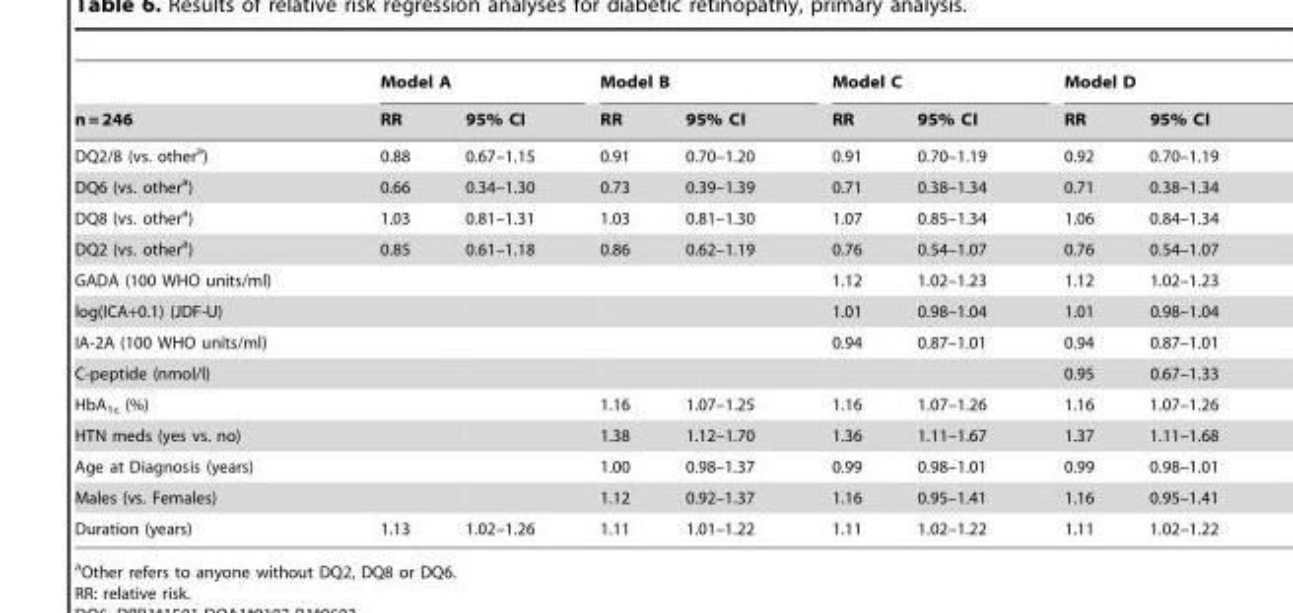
<table><thead><tr><td rowspan="2">n = 246</td><td colspan="2">Model A</td><td colspan="2">Model B</td><td colspan="2">Model C</td><td colspan="2">Model D</td></tr><tr><td>RR</td><td>95% CI</td><td>RR</td><td>95% CI</td><td>RR</td><td>95% CI</td><td>RR</td><td>95% CI</td></tr></thead><tbody><tr><td>DQ2/8 (vs. other<sup>a</sup>)</td><td>0.88</td><td>0.67–1.15</td><td>0.91</td><td>0.70–1.20</td><td>0.91</td><td>0.70–1.19</td><td>0.92</td><td>0.70–1.19</td></tr><tr><td>DQ6 (vs. other<sup>a</sup>)</td><td>0.66</td><td>0.34–1.30</td><td>0.73</td><td>0.39–1.39</td><td>0.71</td><td>0.38–1.34</td><td>0.71</td><td>0.38–1.34</td></tr><tr><td>DQ8 (vs. other<sup>a</sup>)</td><td>1.03</td><td>0.81–1.31</td><td>1.03</td><td>0.81–1.30</td><td>1.07</td><td>0.85–1.34</td><td>1.06</td><td>0.84–1.34</td></tr><tr><td>DQ2 (vs. other<sup>a</sup>)</td><td>0.85</td><td>0.61–1.18</td><td>0.86</td><td>0.62–1.19</td><td>0.76</td><td>0.54–1.07</td><td>0.76</td><td>0.54–1.07</td></tr><tr><td>GADA (100 WHO units/ml)</td><td></td><td></td><td></td><td></td><td>1.12</td><td>1.02–1.23</td><td>1.12</td><td>1.02–1.23</td></tr><tr><td>log(ICA+0.1) (JDF-U)</td><td></td><td></td><td></td><td></td><td>1.01</td><td>0.98–1.04</td><td>1.01</td><td>0.98–1.04</td></tr><tr><td>IA-2A (100 WHO units/ml)</td><td></td><td></td><td></td><td></td><td>0.94</td><td>0.87–1.01</td><td>0.94</td><td>0.87–1.01</td></tr><tr><td>C-peptide (nmol/l)</td><td></td><td></td><td></td><td></td><td></td><td></td><td>0.95</td><td>0.67–1.33</td></tr><tr><td>HbA<sub>1c</sub> (%)</td><td></td><td></td><td>1.16</td><td>1.07–1.25</td><td>1.16</td><td>1.07–1.26</td><td>1.16</td><td>1.07–1.26</td></tr><tr><td>HTN meds (yes vs. no)</td><td></td><td></td><td>1.38</td><td>1.12–1.70</td><td>1.36</td><td>1.11–1.67</td><td>1.37</td><td>1.11–1.68</td></tr><tr><td>Age at Diagnosis (years)</td><td></td><td></td><td>1.00</td><td>0.98–1.37</td><td>0.99</td><td>0.98–1.01</td><td>0.99</td><td>0.98–1.01</td></tr><tr><td>Males (vs. Females)</td><td></td><td></td><td>1.12</td><td>0.92–1.37</td><td>1.16</td><td>0.95–1.41</td><td>1.16</td><td>0.95–1.41</td></tr><tr><td>Duration (years)</td><td>1.13</td><td>1.02–1.26</td><td>1.11</td><td>1.01–1.22</td><td>1.11</td><td>1.02–1.22</td><td>1.11</td><td>1.02–1.22</td></tr></tbody></table>